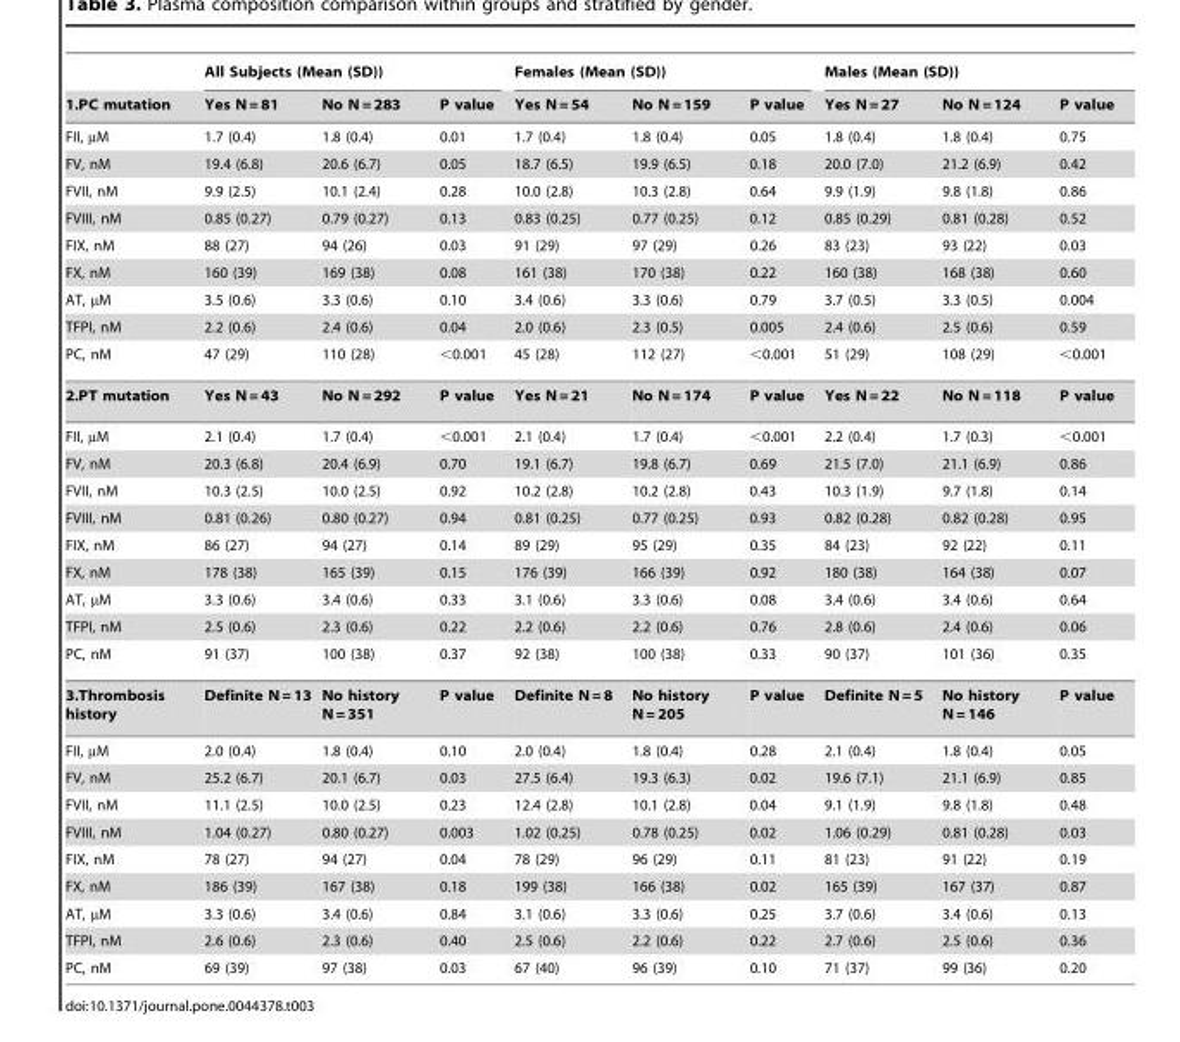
<table><thead><tr><td rowspan="2">1.PC mutation</td><td colspan="3">All Subjects (Mean (SD))</td><td colspan="3">Females (Mean (SD))</td><td colspan="3">Males (Mean (SD))</td></tr><tr><td>Yes N = 81</td><td>No N = 283</td><td>P value</td><td>Yes N = 54</td><td>No N = 159</td><td>P value</td><td>Yes N = 27</td><td>No N = 124</td><td>P value</td></tr></thead><tbody><tr><td>FII, µM</td><td>1.7 (0.4)</td><td>1.8 (0.4)</td><td>0.01</td><td>1.7 (0.4)</td><td>1.8 (0.4)</td><td>0.05</td><td>1.8 (0.4)</td><td>1.8 (0.4)</td><td>0.75</td></tr><tr><td>FV, nM</td><td>19.4 (6.8)</td><td>20.6 (6.7)</td><td>0.05</td><td>18.7 (6.5)</td><td>19.9 (6.5)</td><td>0.18</td><td>20.0 (7.0)</td><td>21.2 (6.9)</td><td>0.42</td></tr><tr><td>FVII, nM</td><td>9.9 (2.5)</td><td>10.1 (2.4)</td><td>0.28</td><td>10.0 (2.8)</td><td>10.3 (2.8)</td><td>0.64</td><td>9.9 (1.9)</td><td>9.8 (1.8)</td><td>0.86</td></tr><tr><td>FVIII, nM</td><td>0.85 (0.27)</td><td>0.79 (0.27)</td><td>0.13</td><td>0.83 (0.25)</td><td>0.77 (0.25)</td><td>0.12</td><td>0.85 (0.29)</td><td>0.81 (0.28)</td><td>0.52</td></tr><tr><td>FIX, nM</td><td>88 (27)</td><td>94 (26)</td><td>0.03</td><td>91 (29)</td><td>97 (29)</td><td>0.26</td><td>83 (23)</td><td>93 (22)</td><td>0.03</td></tr><tr><td>FX, nM</td><td>160 (39)</td><td>169 (38)</td><td>0.08</td><td>161 (38)</td><td>170 (38)</td><td>0.22</td><td>160 (38)</td><td>168 (38)</td><td>0.60</td></tr><tr><td>AT, µM</td><td>3.5 (0.6)</td><td>3.3 (0.6)</td><td>0.10</td><td>3.4 (0.6)</td><td>3.3 (0.6)</td><td>0.79</td><td>3.7 (0.5)</td><td>3.3 (0.5)</td><td>0.004</td></tr><tr><td>TFPI, nM</td><td>2.2 (0.6)</td><td>2.4 (0.6)</td><td>0.04</td><td>2.0 (0.6)</td><td>2.3 (0.5)</td><td>0.005</td><td>2.4 (0.6)</td><td>2.5 (0.6)</td><td>0.59</td></tr><tr><td>PC, nM</td><td>47 (29)</td><td>110 (28)</td><td>&lt;0.001</td><td>45 (28)</td><td>112 (27)</td><td>&lt;0.001</td><td>51 (29)</td><td>108 (29)</td><td>&lt;0.001</td></tr><tr><td>2.PT mutation</td><td>Yes N = 43</td><td>No N = 292</td><td>P value</td><td>Yes N = 21</td><td>No N = 174</td><td>P value</td><td>Yes N = 22</td><td>No N = 118</td><td>P value</td></tr><tr><td>FII, µM</td><td>2.1 (0.4)</td><td>1.7 (0.4)</td><td>&lt;0.001</td><td>2.1 (0.4)</td><td>1.7 (0.4)</td><td>&lt;0.001</td><td>2.2 (0.4)</td><td>1.7 (0.3)</td><td>&lt;0.001</td></tr><tr><td>FV, nM</td><td>20.3 (6.8)</td><td>20.4 (6.9)</td><td>0.70</td><td>19.1 (6.7)</td><td>19.8 (6.7)</td><td>0.69</td><td>21.5 (7.0)</td><td>21.1 (6.9)</td><td>0.86</td></tr><tr><td>FVII, nM</td><td>10.3 (2.5)</td><td>10.0 (2.5)</td><td>0.92</td><td>10.2 (2.8)</td><td>10.2 (2.8)</td><td>0.43</td><td>10.3 (1.9)</td><td>9.7 (1.8)</td><td>0.14</td></tr><tr><td>FVIII, nM</td><td>0.81 (0.26)</td><td>0.80 (0.27)</td><td>0.94</td><td>0.81 (0.25)</td><td>0.77 (0.25)</td><td>0.93</td><td>0.82 (0.28)</td><td>0.82 (0.28)</td><td>0.95</td></tr><tr><td>FIX, nM</td><td>86 (27)</td><td>94 (27)</td><td>0.14</td><td>89 (29)</td><td>95 (29)</td><td>0.35</td><td>84 (23)</td><td>92 (22)</td><td>0.11</td></tr><tr><td>FX, nM</td><td>178 (38)</td><td>165 (39)</td><td>0.15</td><td>176 (39)</td><td>166 (39)</td><td>0.92</td><td>180 (38)</td><td>164 (38)</td><td>0.07</td></tr><tr><td>AT, µM</td><td>3.3 (0.6)</td><td>3.4 (0.6)</td><td>0.33</td><td>3.1 (0.6)</td><td>3.3 (0.6)</td><td>0.08</td><td>3.4 (0.6)</td><td>3.4 (0.6)</td><td>0.64</td></tr><tr><td>TFPI, nM</td><td>2.5 (0.6)</td><td>2.3 (0.6)</td><td>0.22</td><td>2.2 (0.6)</td><td>2.2 (0.6)</td><td>0.76</td><td>2.8 (0.6)</td><td>2.4 (0.6)</td><td>0.06</td></tr><tr><td>PC, nM</td><td>91 (37)</td><td>100 (38)</td><td>0.37</td><td>92 (38)</td><td>100 (38)</td><td>0.33</td><td>90 (37)</td><td>101 (36)</td><td>0.35</td></tr><tr><td>3.Thrombosis history</td><td>Definite N = 13</td><td>No history N = 351</td><td>P value</td><td>Definite N = 8</td><td>No history N = 205</td><td>P value</td><td>Definite N = 5</td><td>No history N = 146</td><td>P value</td></tr><tr><td>FII, µM</td><td>2.0 (0.4)</td><td>1.8 (0.4)</td><td>0.10</td><td>2.0 (0.4)</td><td>1.8 (0.4)</td><td>0.28</td><td>2.1 (0.4)</td><td>1.8 (0.4)</td><td>0.05</td></tr><tr><td>FV, nM</td><td>25.2 (6.7)</td><td>20.1 (6.7)</td><td>0.03</td><td>27.5 (6.4)</td><td>19.3 (6.3)</td><td>0.02</td><td>19.6 (7.1)</td><td>21.1 (6.9)</td><td>0.85</td></tr><tr><td>FVII, nM</td><td>11.1 (2.5)</td><td>10.0 (2.5)</td><td>0.23</td><td>12.4 (2.8)</td><td>10.1 (2.8)</td><td>0.04</td><td>9.1 (1.9)</td><td>9.8 (1.8)</td><td>0.48</td></tr><tr><td>FVIII, nM</td><td>1.04 (0.27)</td><td>0.80 (0.27)</td><td>0.003</td><td>1.02 (0.25)</td><td>0.78 (0.25)</td><td>0.02</td><td>1.06 (0.29)</td><td>0.81 (0.28)</td><td>0.03</td></tr><tr><td>FIX, nM</td><td>78 (27)</td><td>94 (27)</td><td>0.04</td><td>78 (29)</td><td>96 (29)</td><td>0.11</td><td>81 (23)</td><td>91 (22)</td><td>0.19</td></tr><tr><td>FX, nM</td><td>186 (39)</td><td>167 (38)</td><td>0.18</td><td>199 (38)</td><td>166 (38)</td><td>0.02</td><td>165 (39)</td><td>167 (37)</td><td>0.87</td></tr><tr><td>AT, µM</td><td>3.3 (0.6)</td><td>3.4 (0.6)</td><td>0.84</td><td>3.1 (0.6)</td><td>3.3 (0.6)</td><td>0.25</td><td>3.7 (0.6)</td><td>3.4 (0.6)</td><td>0.13</td></tr><tr><td>TFPI, nM</td><td>2.6 (0.6)</td><td>2.3 (0.6)</td><td>0.40</td><td>2.5 (0.6)</td><td>2.2 (0.6)</td><td>0.22</td><td>2.7 (0.6)</td><td>2.5 (0.6)</td><td>0.36</td></tr><tr><td>PC, nM</td><td>69 (39)</td><td>97 (38)</td><td>0.03</td><td>67 (40)</td><td>96 (39)</td><td>0.10</td><td>71 (37)</td><td>99 (36)</td><td>0.20</td></tr></tbody></table>